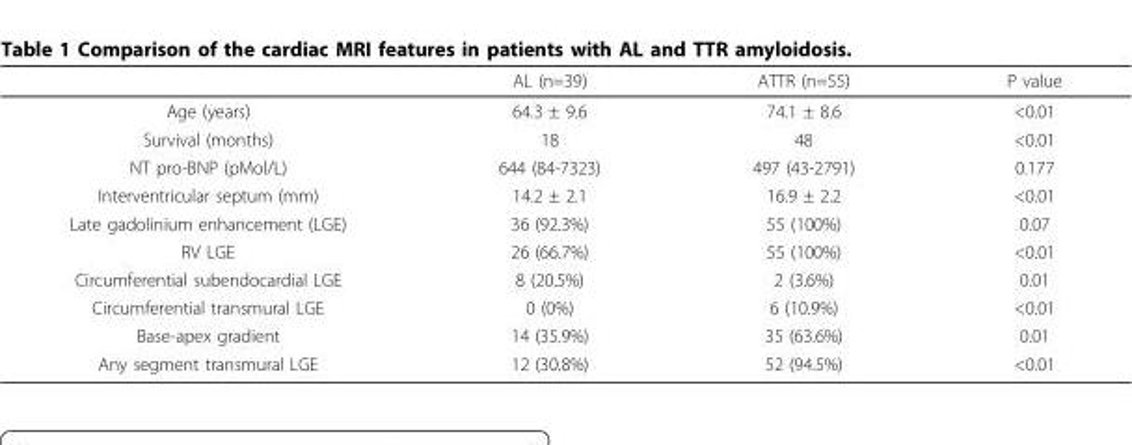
<table><thead><tr><td></td><td>AL (n=39)</td><td>ATTR (n=55)</td><td>P value</td></tr></thead><tbody><tr><td>Age (years)</td><td>64.3 ± 9.6</td><td>74.1 ± 8.6</td><td>&lt;0.01</td></tr><tr><td>Survival (months)</td><td>18</td><td>48</td><td>&lt;0.01</td></tr><tr><td>NT pro-BNP (pMol/L)</td><td>644 (84-7323)</td><td>497 (43-2791)</td><td>0.177</td></tr><tr><td>Interventricular septum (mm)</td><td>14.2 ± 2.1</td><td>16.9 ± 2.2</td><td>&lt;0.01</td></tr><tr><td>Late gadolinium enhancement (LGE)</td><td>36 (92.3%)</td><td>55 (100%)</td><td>0.07</td></tr><tr><td>RV LGE</td><td>26 (66.7%)</td><td>55 (100%)</td><td>&lt;0.01</td></tr><tr><td>Circumferential subendocardial LGE</td><td>8 (20.5%)</td><td>2 (3.6%)</td><td>0.01</td></tr><tr><td>Circumferential transmural LGE</td><td>0 (0%)</td><td>6 (10.9%)</td><td>&lt;0.01</td></tr><tr><td>Base-apex gradient</td><td>14 (35.9%)</td><td>35 (63.6%)</td><td>0.01</td></tr><tr><td>Any segment transmural LGE</td><td>12 (30.8%)</td><td>52 (94.5%)</td><td>&lt;0.01</td></tr></tbody></table>